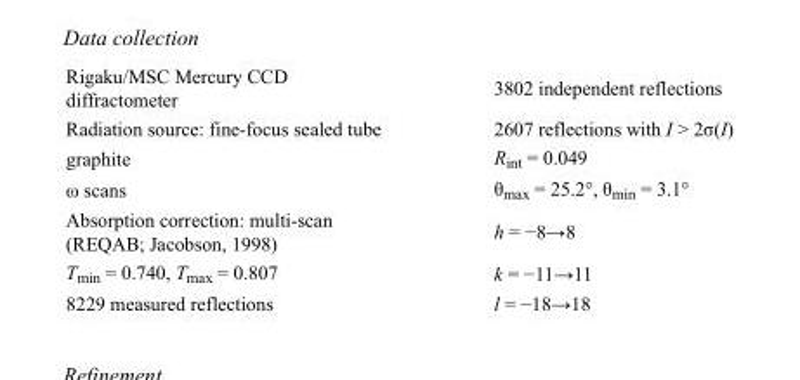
<table><tbody><tr><td>Rigaku/MSC Mercury CCD diffractometer</td><td>3802 independent reflections</td></tr><tr><td>Radiation source: fine-focus sealed tube</td><td>2607 reflections with I &gt; 2σ(I)</td></tr><tr><td>graphite</td><td>R<sub>int</sub> = 0.049</td></tr><tr><td>ω scans</td><td>θ<sub>max</sub> = 25.2°, θ<sub>min</sub> = 3.1°</td></tr><tr><td>Absorption correction: multi-scan (REQAB; Jacobson, 1998)</td><td>h = −8→8</td></tr><tr><td>T<sub>min</sub> = 0.740, T<sub>max</sub> = 0.807</td><td>k = −11→11</td></tr><tr><td>8229 measured reflections</td><td>l = −18→18</td></tr></tbody></table>